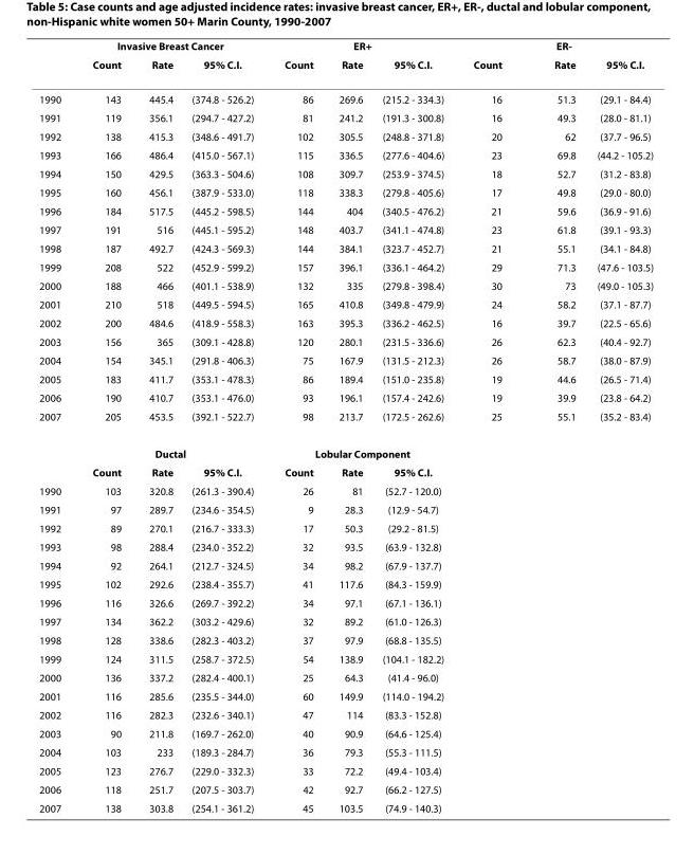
<table><thead><tr><td rowspan="2"></td><td colspan="3">Invasive Breast Cancer</td><td colspan="3">ER+</td><td colspan="3">ER-</td></tr><tr><td>Count</td><td>Rate</td><td>95% C.I.</td><td>Count</td><td>Rate</td><td>95% C.I.</td><td>Count</td><td>Rate</td><td>95% C.I.</td></tr></thead><tbody><tr><td>1990</td><td>143</td><td>445.4</td><td>(374.8 - 526.2)</td><td>86</td><td>269.6</td><td>(215.2 - 334.3)</td><td>16</td><td>51.3</td><td>(29.1 - 84.4)</td></tr><tr><td>1991</td><td>119</td><td>356.1</td><td>(294.7 - 427.2)</td><td>81</td><td>241.2</td><td>(191.3 - 300.8)</td><td>16</td><td>49.3</td><td>(28.0 - 81.1)</td></tr><tr><td>1992</td><td>138</td><td>415.3</td><td>(348.6 - 491.7)</td><td>102</td><td>305.5</td><td>(248.8 - 371.8)</td><td>20</td><td>62</td><td>(37.7 - 96.5)</td></tr><tr><td>1993</td><td>166</td><td>486.4</td><td>(415.0 - 567.1)</td><td>115</td><td>336.5</td><td>(277.6 - 404.6)</td><td>23</td><td>69.8</td><td>(44.2 - 105.2)</td></tr><tr><td>1994</td><td>150</td><td>429.5</td><td>(363.3 - 504.6)</td><td>108</td><td>309.7</td><td>(253.9 - 374.5)</td><td>18</td><td>52.7</td><td>(31.2 - 83.8)</td></tr><tr><td>1995</td><td>160</td><td>456.1</td><td>(387.9 - 533.0)</td><td>118</td><td>338.3</td><td>(279.8 - 405.6)</td><td>17</td><td>49.8</td><td>(29.0 - 80.0)</td></tr><tr><td>1996</td><td>184</td><td>517.5</td><td>(445.2 - 598.5)</td><td>144</td><td>404</td><td>(340.5 - 476.2)</td><td>21</td><td>59.6</td><td>(36.9 - 91.6)</td></tr><tr><td>1997</td><td>191</td><td>516</td><td>(445.1 - 595.2)</td><td>148</td><td>403.7</td><td>(341.1 - 474.8)</td><td>23</td><td>61.8</td><td>(39.1 - 93.3)</td></tr><tr><td>1998</td><td>187</td><td>492.7</td><td>(424.3 - 569.3)</td><td>144</td><td>384.1</td><td>(323.7 - 452.7)</td><td>21</td><td>55.1</td><td>(34.1 - 84.8)</td></tr><tr><td>1999</td><td>208</td><td>522</td><td>(452.9 - 599.2)</td><td>157</td><td>396.1</td><td>(336.1 - 464.2)</td><td>29</td><td>71.3</td><td>(47.6 - 103.5)</td></tr><tr><td>2000</td><td>188</td><td>466</td><td>(401.1 - 538.9)</td><td>132</td><td>335</td><td>(279.8 - 398.4)</td><td>30</td><td>73</td><td>(49.0 - 105.3)</td></tr><tr><td>2001</td><td>210</td><td>518</td><td>(449.5 - 594.5)</td><td>165</td><td>410.8</td><td>(349.8 - 479.9)</td><td>24</td><td>58.2</td><td>(37.1 - 87.7)</td></tr><tr><td>2002</td><td>200</td><td>484.6</td><td>(418.9 - 558.3)</td><td>163</td><td>395.3</td><td>(336.2 - 462.5)</td><td>16</td><td>39.7</td><td>(22.5 - 65.6)</td></tr><tr><td>2003</td><td>156</td><td>365</td><td>(309.1 - 428.8)</td><td>120</td><td>280.1</td><td>(231.5 - 336.6)</td><td>26</td><td>62.3</td><td>(40.4 - 92.7)</td></tr><tr><td>2004</td><td>154</td><td>345.1</td><td>(291.8 - 406.3)</td><td>75</td><td>167.9</td><td>(131.5 - 212.3)</td><td>26</td><td>58.7</td><td>(38.0 - 87.9)</td></tr><tr><td>2005</td><td>183</td><td>411.7</td><td>(353.1 - 478.3)</td><td>86</td><td>189.4</td><td>(151.0 - 235.8)</td><td>19</td><td>44.6</td><td>(26.5 - 71.4)</td></tr><tr><td>2006</td><td>190</td><td>410.7</td><td>(353.1 - 476.0)</td><td>93</td><td>196.1</td><td>(157.4 - 242.6)</td><td>19</td><td>39.9</td><td>(23.8 - 64.2)</td></tr><tr><td rowspan="3">2007</td><td>205</td><td>453.5</td><td>(392.1 - 522.7)</td><td>98</td><td>213.7</td><td>(172.5 - 262.6)</td><td>25</td><td>55.1</td><td>(35.2 - 83.4)</td></tr><tr><td colspan="3">Ductal</td><td colspan="3">Lobular Component</td><td></td><td></td><td></td></tr><tr><td>Count</td><td>Rate</td><td>95% C.I.</td><td>Count</td><td>Rate</td><td>95% C.I.</td><td></td><td></td><td></td></tr><tr><td>1990</td><td>103</td><td>320.8</td><td>(261.3 - 390.4)</td><td>26</td><td>81</td><td>(52.7 - 120.0)</td><td></td><td></td><td></td></tr><tr><td>1991</td><td>97</td><td>289.7</td><td>(234.6 - 354.5)</td><td>9</td><td>28.3</td><td>(12.9 - 54.7)</td><td></td><td></td><td></td></tr><tr><td>1992</td><td>89</td><td>270.1</td><td>(216.7 - 333.3)</td><td>17</td><td>50.3</td><td>(29.2 - 81.5)</td><td></td><td></td><td></td></tr><tr><td>1993</td><td>98</td><td>288.4</td><td>(234.0 - 352.2)</td><td>32</td><td>93.5</td><td>(63.9 - 132.8)</td><td></td><td></td><td></td></tr><tr><td>1994</td><td>92</td><td>264.1</td><td>(212.7 - 324.5)</td><td>34</td><td>98.2</td><td>(67.9 - 137.7)</td><td></td><td></td><td></td></tr><tr><td>1995</td><td>102</td><td>292.6</td><td>(238.4 - 355.7)</td><td>41</td><td>117.6</td><td>(84.3 - 159.9)</td><td></td><td></td><td></td></tr><tr><td>1996</td><td>116</td><td>326.6</td><td>(269.7 - 392.2)</td><td>34</td><td>97.1</td><td>(67.1 - 136.1)</td><td></td><td></td><td></td></tr><tr><td>1997</td><td>134</td><td>362.2</td><td>(303.2 - 429.6)</td><td>32</td><td>89.2</td><td>(61.0 - 126.3)</td><td></td><td></td><td></td></tr><tr><td>1998</td><td>128</td><td>338.6</td><td>(282.3 - 403.2)</td><td>37</td><td>97.9</td><td>(68.8 - 135.5)</td><td></td><td></td><td></td></tr><tr><td>1999</td><td>124</td><td>311.5</td><td>(258.7 - 372.5)</td><td>54</td><td>138.9</td><td>(104.1 - 182.2)</td><td></td><td></td><td></td></tr><tr><td>2000</td><td>136</td><td>337.2</td><td>(282.4 - 400.1)</td><td>25</td><td>64.3</td><td>(41.4 - 96.0)</td><td></td><td></td><td></td></tr><tr><td>2001</td><td>116</td><td>285.6</td><td>(235.5 - 344.0)</td><td>60</td><td>149.9</td><td>(114.0 - 194.2)</td><td></td><td></td><td></td></tr><tr><td>2002</td><td>116</td><td>282.3</td><td>(232.6 - 340.1)</td><td>47</td><td>114</td><td>(83.3 - 152.8)</td><td></td><td></td><td></td></tr><tr><td>2003</td><td>90</td><td>211.8</td><td>(169.7 - 262.0)</td><td>40</td><td>90.9</td><td>(64.6 - 125.4)</td><td></td><td></td><td></td></tr><tr><td>2004</td><td>103</td><td>233</td><td>(189.3 - 284.7)</td><td>36</td><td>79.3</td><td>(55.3 - 111.5)</td><td></td><td></td><td></td></tr><tr><td>2005</td><td>123</td><td>276.7</td><td>(229.0 - 332.3)</td><td>33</td><td>72.2</td><td>(49.4 - 103.4)</td><td></td><td></td><td></td></tr><tr><td>2006</td><td>118</td><td>251.7</td><td>(207.5 - 303.7)</td><td>42</td><td>92.7</td><td>(66.2 - 127.5)</td><td></td><td></td><td></td></tr><tr><td>2007</td><td>138</td><td>303.8</td><td>(254.1 - 361.2)</td><td>45</td><td>103.5</td><td>(74.9 - 140.3)</td><td></td><td></td><td></td></tr></tbody></table>